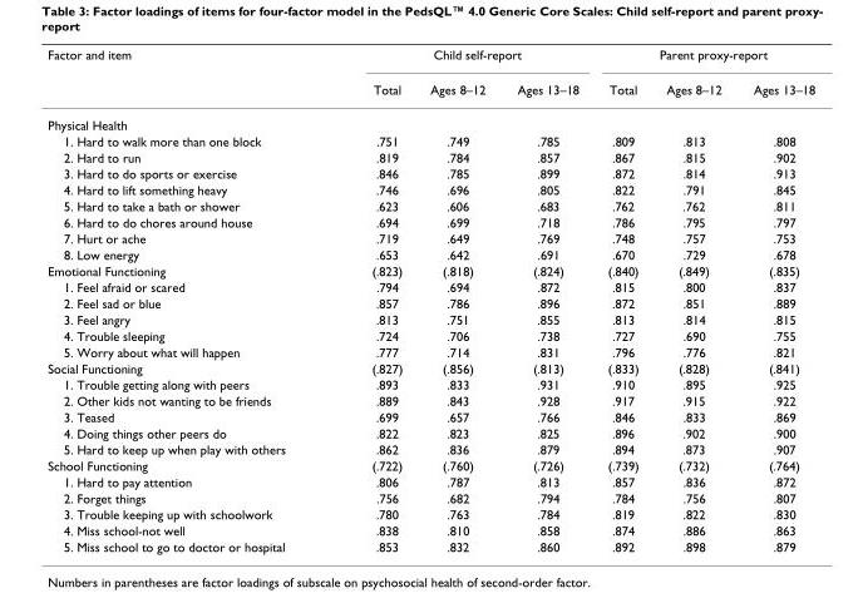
<table><thead><tr><td rowspan="2">Factor and item</td><td colspan="3">Child self-report</td><td colspan="3">Parent proxy-report</td></tr><tr><td>Total</td><td>Ages 8–12</td><td>Ages 13–18</td><td>Total</td><td>Ages 8–12</td><td>Ages 13–18</td></tr></thead><tbody><tr><td colspan="7">Physical Health</td></tr><tr><td>1. Hard to walk more than one block</td><td>.751</td><td>.749</td><td>.785</td><td>.809</td><td>.813</td><td>.808</td></tr><tr><td>2. Hard to run</td><td>.819</td><td>.784</td><td>.857</td><td>.867</td><td>.815</td><td>.902</td></tr><tr><td>3. Hard to do sports or exercise</td><td>.846</td><td>.785</td><td>.899</td><td>.872</td><td>.814</td><td>.913</td></tr><tr><td>4. Hard to lift something heavy</td><td>.746</td><td>.696</td><td>.805</td><td>.822</td><td>.791</td><td>.845</td></tr><tr><td>5. Hard to take a bath or shower</td><td>.623</td><td>.606</td><td>.683</td><td>.762</td><td>.762</td><td>.811</td></tr><tr><td>6. Hard to do chores around house</td><td>.694</td><td>.699</td><td>.718</td><td>.786</td><td>.795</td><td>.797</td></tr><tr><td>7. Hurt or ache</td><td>.719</td><td>.649</td><td>.769</td><td>.748</td><td>.757</td><td>.753</td></tr><tr><td>8. Low energy</td><td>.653</td><td>.642</td><td>.691</td><td>.670</td><td>.729</td><td>.678</td></tr><tr><td>Emotional Functioning</td><td>(.823)</td><td>(.818)</td><td>(.824)</td><td>(.840)</td><td>(.849)</td><td>(.835)</td></tr><tr><td>1. Feel afraid or scared</td><td>.794</td><td>.694</td><td>.872</td><td>.815</td><td>.800</td><td>.837</td></tr><tr><td>2. Feel sad or blue</td><td>.857</td><td>.786</td><td>.896</td><td>.872</td><td>.851</td><td>.889</td></tr><tr><td>3. Feel angry</td><td>.813</td><td>.751</td><td>.855</td><td>.813</td><td>.814</td><td>.815</td></tr><tr><td>4. Trouble sleeping</td><td>.724</td><td>.706</td><td>.738</td><td>.727</td><td>.690</td><td>.755</td></tr><tr><td>5. Worry about what will happen</td><td>.777</td><td>.714</td><td>.831</td><td>.796</td><td>.776</td><td>.821</td></tr><tr><td>Social Functioning</td><td>(.827)</td><td>(.856)</td><td>(.813)</td><td>(.833)</td><td>(.828)</td><td>(.841)</td></tr><tr><td>1. Trouble getting along with peers</td><td>.893</td><td>.833</td><td>.931</td><td>.910</td><td>.895</td><td>.925</td></tr><tr><td>2. Other kids not wanting to be friends</td><td>.889</td><td>.843</td><td>.928</td><td>.917</td><td>.915</td><td>.922</td></tr><tr><td>3. Teased</td><td>.699</td><td>.657</td><td>.766</td><td>.846</td><td>.833</td><td>.869</td></tr><tr><td>4. Doing things other peers do</td><td>.822</td><td>.823</td><td>.825</td><td>.896</td><td>.902</td><td>.900</td></tr><tr><td>5. Hard to keep up when play with others</td><td>.862</td><td>.836</td><td>.879</td><td>.894</td><td>.873</td><td>.907</td></tr><tr><td>School Functioning</td><td>(.722)</td><td>(.760)</td><td>(.726)</td><td>(.739)</td><td>(.732)</td><td>(.764)</td></tr><tr><td>1. Hard to pay attention</td><td>.806</td><td>.787</td><td>.813</td><td>.857</td><td>.836</td><td>.872</td></tr><tr><td>2. Forget things</td><td>.756</td><td>.682</td><td>.794</td><td>.784</td><td>.756</td><td>.807</td></tr><tr><td>3. Trouble keeping up with schoolwork</td><td>.780</td><td>.763</td><td>.784</td><td>.819</td><td>.822</td><td>.830</td></tr><tr><td>4. Miss school-not well</td><td>.838</td><td>.810</td><td>.858</td><td>.874</td><td>.886</td><td>.863</td></tr><tr><td>5. Miss school to go to doctor or hospital</td><td>.853</td><td>.832</td><td>.860</td><td>.892</td><td>.898</td><td>.879</td></tr></tbody></table>